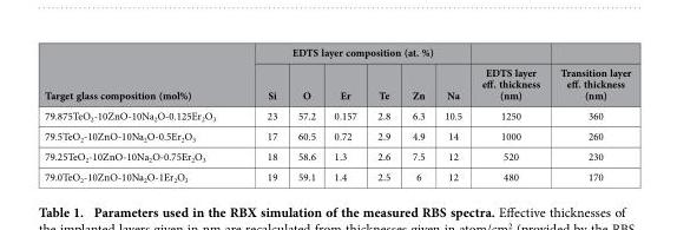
<table><thead><tr><td rowspan="2">Target glass composition (mol%)</td><td colspan="6">EDTS layer composition (at. %)</td><td rowspan="2">EDTS layer eff. thickness (nm)</td><td rowspan="2">Transition layer eff. thickness (nm)</td></tr><tr><td>Si</td><td>O</td><td>Er</td><td>Te</td><td>Zn</td><td>Na</td></tr></thead><tbody><tr><td>79.875TeO<sub>2</sub>-10ZnO-10Na<sub>2</sub>O-0.125Er<sub>2</sub>O<sub>3</sub></td><td>23</td><td>57.2</td><td>0.157</td><td>2.8</td><td>6.3</td><td>10.5</td><td>1250</td><td>360</td></tr><tr><td>79.5TeO<sub>2</sub>-10ZnO-10Na<sub>2</sub>O-0.5Er<sub>2</sub>O<sub>3</sub></td><td>17</td><td>60.5</td><td>0.72</td><td>2.9</td><td>4.9</td><td>14</td><td>1000</td><td>260</td></tr><tr><td>79.25TeO<sub>2</sub>-10ZnO-10Na<sub>2</sub>O-0.75Er<sub>2</sub>O<sub>3</sub></td><td>18</td><td>58.6</td><td>1.3</td><td>2.6</td><td>7.5</td><td>12</td><td>520</td><td>230</td></tr><tr><td>79.0TeO<sub>2</sub>-10ZnO-10Na<sub>2</sub>O-1Er<sub>2</sub>O<sub>3</sub></td><td>19</td><td>59.1</td><td>1.4</td><td>2.5</td><td>6</td><td>12</td><td>480</td><td>170</td></tr></tbody></table>